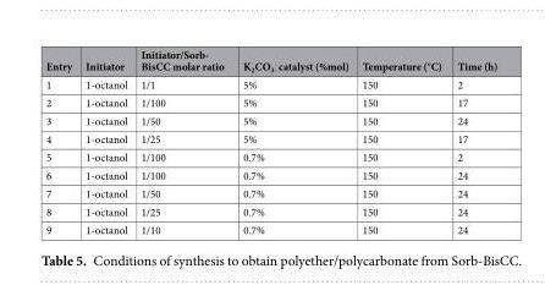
<table><thead><tr><td>Entry</td><td>Initiator</td><td>Initiator/Sorb- BisCC molar ratio</td><td>K<sub>2</sub>CO<sub>3-</sub> catalyst (%mol)</td><td>Temperature (°C)</td><td>Time (h)</td></tr></thead><tbody><tr><td>1</td><td>1-octanol</td><td>1/1</td><td>5%</td><td>150</td><td>2</td></tr><tr><td>2</td><td>1-octanol</td><td>1/100</td><td>5%</td><td>150</td><td>17</td></tr><tr><td>3</td><td>1-octanol</td><td>1/50</td><td>5%</td><td>150</td><td>24</td></tr><tr><td>4</td><td>1-octanol</td><td>1/25</td><td>5%</td><td>150</td><td>17</td></tr><tr><td>5</td><td>1-octanol</td><td>1/100</td><td>0.7%</td><td>150</td><td>2</td></tr><tr><td>6</td><td>1-octanol</td><td>1/100</td><td>0.7%</td><td>150</td><td>24</td></tr><tr><td>7</td><td>1-octanol</td><td>1/50</td><td>0.7%</td><td>150</td><td>24</td></tr><tr><td>8</td><td>1-octanol</td><td>1/25</td><td>0.7%</td><td>150</td><td>24</td></tr><tr><td>9</td><td>1-octanol</td><td>1/10</td><td>0.7%</td><td>150</td><td>24</td></tr></tbody></table>